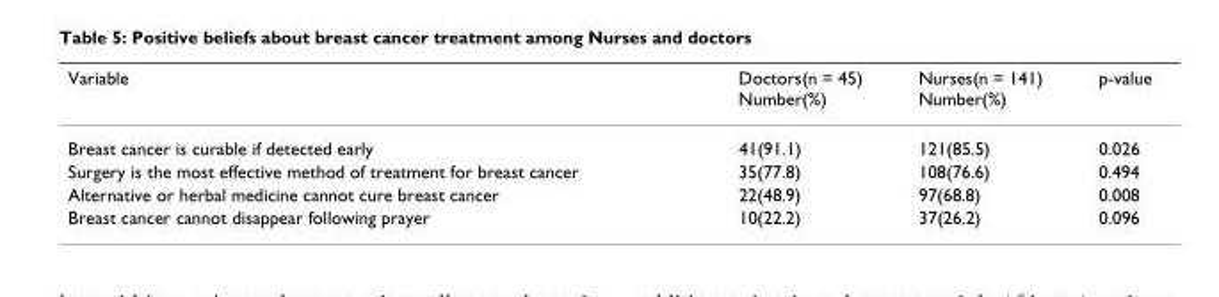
<table><thead><tr><td>Variable</td><td>Doctors(n = 45) Number(%)</td><td>Nurses(n = 141) Number(%)</td><td>p-value</td></tr></thead><tbody><tr><td>Breast cancer is curable if detected early</td><td>41(91.1)</td><td>121(85.5)</td><td>0.026</td></tr><tr><td>Surgery is the most effective method of treatment for breast cancer</td><td>35(77.8)</td><td>108(76.6)</td><td>0.494</td></tr><tr><td>Alternative or herbal medicine cannot cure breast cancer</td><td>22(48.9)</td><td>97(68.8)</td><td>0.008</td></tr><tr><td>Breast cancer cannot disappear following prayer</td><td>10(22.2)</td><td>37(26.2)</td><td>0.096</td></tr></tbody></table>